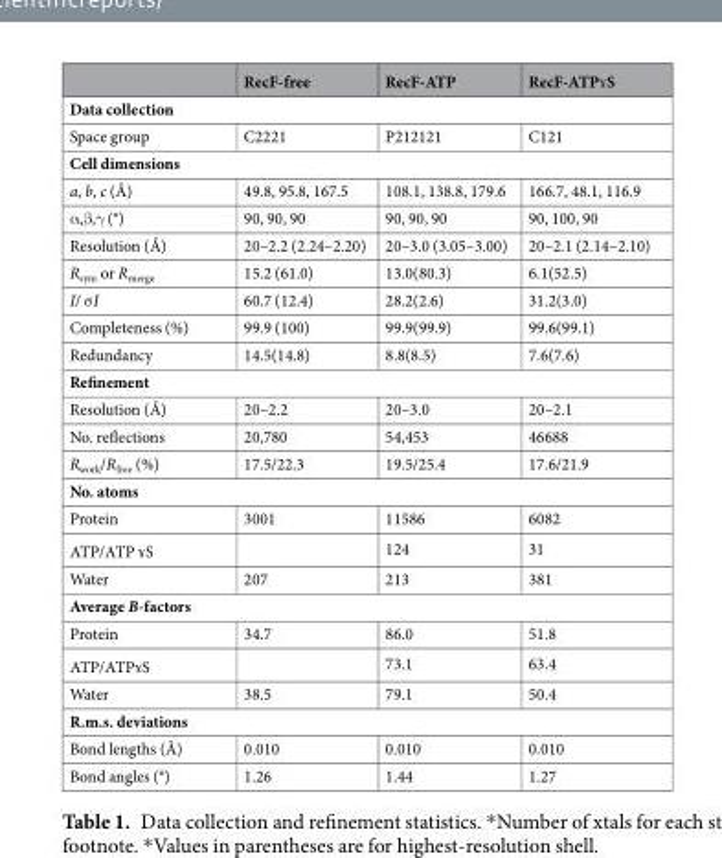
<table><thead><tr><td></td><td>RecF-free</td><td>RecF-ATP</td><td>RecF-ATPɤS</td></tr></thead><tbody><tr><td colspan="4">Data collection</td></tr><tr><td>Space group</td><td>C2221</td><td>P212121</td><td>C121</td></tr><tr><td colspan="4">Cell dimensions</td></tr><tr><td>a, b, c (Å)</td><td>49.8, 95.8, 167.5</td><td>108.1, 138.8, 179.6</td><td>166.7, 48.1, 116.9</td></tr><tr><td>α,β,γ (°)</td><td>90, 90, 90</td><td>90, 90, 90</td><td>90, 100, 90</td></tr><tr><td>Resolution (Å)</td><td>20–2.2 (2.24–2.20)</td><td>20–3.0 (3.05–3.00)</td><td>20–2.1 (2.14–2.10)</td></tr><tr><td>R<sub>sym</sub> or R<sub>merge</sub></td><td>15.2 (61.0)</td><td>13.0(80.3)</td><td>6.1(52.5)</td></tr><tr><td>I/ σI</td><td>60.7 (12.4)</td><td>28.2(2.6)</td><td>31.2(3.0)</td></tr><tr><td>Completeness (%)</td><td>99.9 (100)</td><td>99.9(99.9)</td><td>99.6(99.1)</td></tr><tr><td>Redundancy</td><td>14.5(14.8)</td><td>8.8(8.5)</td><td>7.6(7.6)</td></tr><tr><td colspan="4">Refinement</td></tr><tr><td>Resolution (Å)</td><td>20–2.2</td><td>20–3.0</td><td>20–2.1</td></tr><tr><td>No. reflections</td><td>20,780</td><td>54,453</td><td>46688</td></tr><tr><td>R<sub>work</sub>/R<sub>free</sub> (%)</td><td>17.5/22.3</td><td>19.5/25.4</td><td>17.6/21.9</td></tr><tr><td colspan="4">No. atoms</td></tr><tr><td>Protein</td><td>3001</td><td>11586</td><td>6082</td></tr><tr><td>ATP/ATP ɤS</td><td></td><td>124</td><td>31</td></tr><tr><td>Water</td><td>207</td><td>213</td><td>381</td></tr><tr><td colspan="4">Average B-factors</td></tr><tr><td>Protein</td><td>34.7</td><td>86.0</td><td>51.8</td></tr><tr><td>ATP/ATPɤS</td><td></td><td>73.1</td><td>63.4</td></tr><tr><td>Water</td><td>38.5</td><td>79.1</td><td>50.4</td></tr><tr><td colspan="4">R.m.s. deviations</td></tr><tr><td>Bond lengths (Å)</td><td>0.010</td><td>0.010</td><td>0.010</td></tr><tr><td>Bond angles (°)</td><td>1.26</td><td>1.44</td><td>1.27</td></tr></tbody></table>